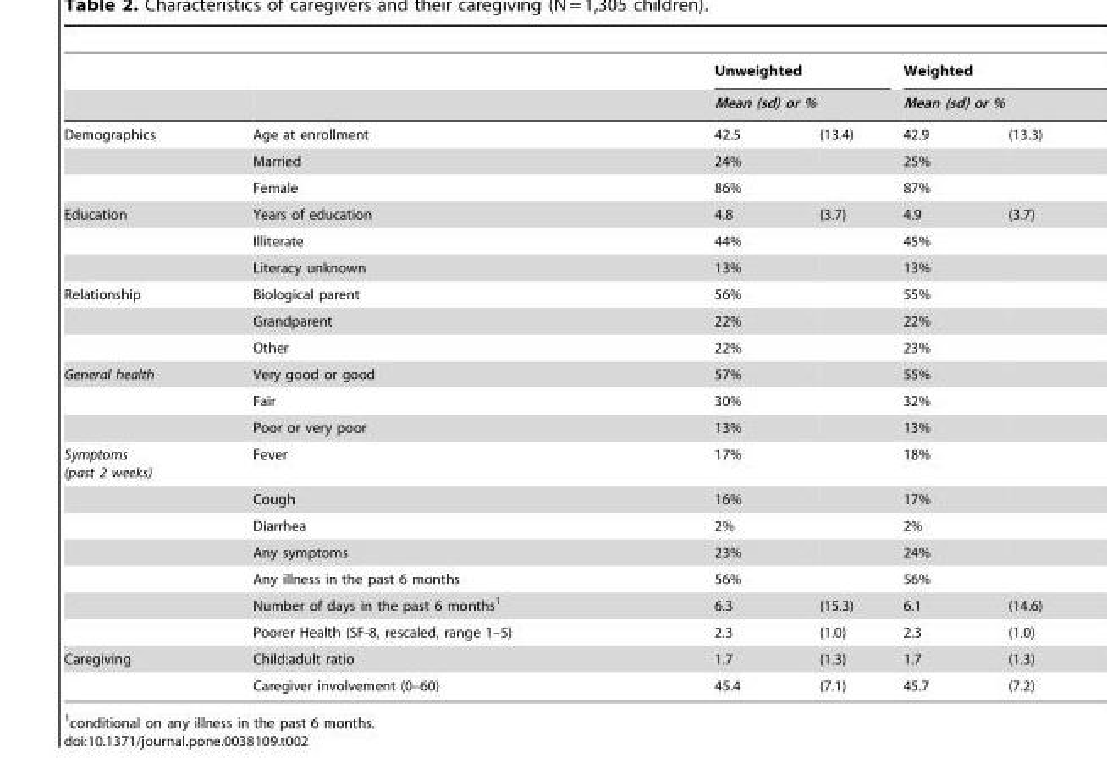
<table><thead><tr><td rowspan="3">Demographics</td><td rowspan="3">Age at enrollment</td><td rowspan="2" colspan="2">Unweighted Mean (sd) or %</td><td rowspan="2" colspan="2">Weighted Mean (sd) or %</td></tr><tr></tr><tr><td>42.5</td><td>(13.4)</td><td>42.9</td><td>(13.3)</td></tr></thead><tbody><tr><td></td><td>Married</td><td>24%</td><td></td><td>25%</td><td></td></tr><tr><td></td><td>Female</td><td>86%</td><td></td><td>87%</td><td></td></tr><tr><td rowspan="3">Education</td><td>Years of education</td><td>4.8</td><td>(3.7)</td><td>4.9</td><td>(3.7)</td></tr><tr><td>Illiterate</td><td>44%</td><td></td><td>45%</td><td></td></tr><tr><td>Literacy unknown</td><td>13%</td><td></td><td>13%</td><td></td></tr><tr><td rowspan="3">Relationship</td><td>Biological parent</td><td>56%</td><td></td><td>55%</td><td></td></tr><tr><td>Grandparent</td><td>22%</td><td></td><td>22%</td><td></td></tr><tr><td>Other</td><td>22%</td><td></td><td>23%</td><td></td></tr><tr><td rowspan="3">General health</td><td>Very good or good</td><td>57%</td><td></td><td>55%</td><td></td></tr><tr><td>Fair</td><td>30%</td><td></td><td>32%</td><td></td></tr><tr><td>Poor or very poor</td><td>13%</td><td></td><td>13%</td><td></td></tr><tr><td rowspan="7">Symptoms (past 2 weeks)</td><td>Fever</td><td>17%</td><td></td><td>18%</td><td></td></tr><tr><td>Cough</td><td>16%</td><td></td><td>17%</td><td></td></tr><tr><td>Diarrhea</td><td>2%</td><td></td><td>2%</td><td></td></tr><tr><td>Any symptoms</td><td>23%</td><td></td><td>24%</td><td></td></tr><tr><td>Any illness in the past 6 months</td><td>56%</td><td></td><td>56%</td><td></td></tr><tr><td>Number of days in the past 6 months<sup>1</sup></td><td>6.3</td><td>(15.3)</td><td>6.1</td><td>(14.6)</td></tr><tr><td>Poorer Health (SF-8, rescaled, range 1–5)</td><td>2.3</td><td>(1.0)</td><td>2.3</td><td>(1.0)</td></tr><tr><td rowspan="2">Caregiving</td><td>Child:adult ratio</td><td>1.7</td><td>(1.3)</td><td>1.7</td><td>(1.3)</td></tr><tr><td>Caregiver involvement (0–60)</td><td>45.4</td><td>(7.1)</td><td>45.7</td><td>(7.2)</td></tr></tbody></table>